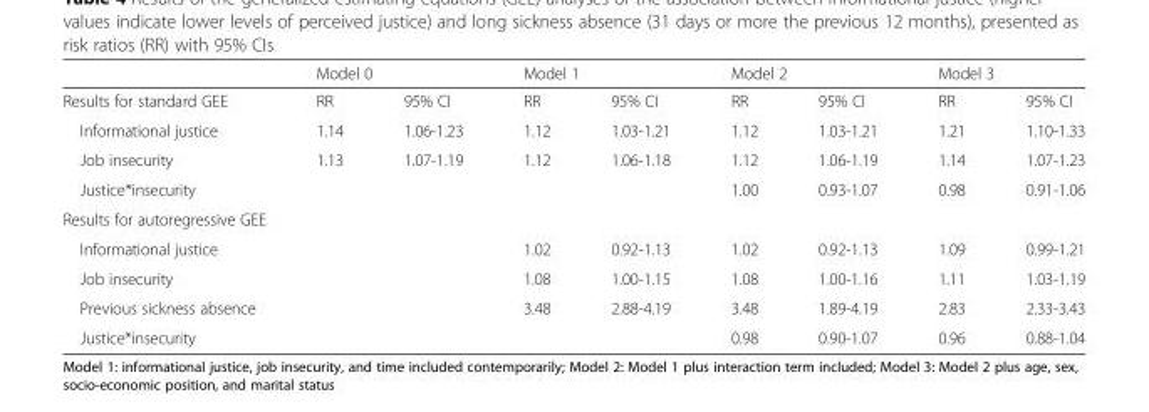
<table><thead><tr><td rowspan="2">Results for standard GEE</td><td colspan="2">Model 0</td><td colspan="2">Model 1</td><td colspan="2">Model 2</td><td colspan="2">Model 3</td></tr><tr><td>RR</td><td>95% CI</td><td>RR</td><td>95% CI</td><td>RR</td><td>95% CI</td><td>RR</td><td>95% CI</td></tr></thead><tbody><tr><td>Informational justice</td><td>1.14</td><td>1.06-1.23</td><td>1.12</td><td>1.03-1.21</td><td>1.12</td><td>1.03-1.21</td><td>1.21</td><td>1.10-1.33</td></tr><tr><td>Job insecurity</td><td>1.13</td><td>1.07-1.19</td><td>1.12</td><td>1.06-1.18</td><td>1.12</td><td>1.06-1.19</td><td>1.14</td><td>1.07-1.23</td></tr><tr><td>Justice*insecurity</td><td></td><td></td><td></td><td></td><td>1.00</td><td>0.93-1.07</td><td>0.98</td><td>0.91-1.06</td></tr><tr><td colspan="9">Results for autoregressive GEE</td></tr><tr><td>Informational justice</td><td></td><td></td><td>1.02</td><td>0.92-1.13</td><td>1.02</td><td>0.92-1.13</td><td>1.09</td><td>0.99-1.21</td></tr><tr><td>Job insecurity</td><td></td><td></td><td>1.08</td><td>1.00-1.15</td><td>1.08</td><td>1.00-1.16</td><td>1.11</td><td>1.03-1.19</td></tr><tr><td>Previous sickness absence</td><td></td><td></td><td>3.48</td><td>2.88-4.19</td><td>3.48</td><td>1.89-4.19</td><td>2.83</td><td>2.33-3.43</td></tr><tr><td>Justice*insecurity</td><td></td><td></td><td></td><td></td><td>0.98</td><td>0.90-1.07</td><td>0.96</td><td>0.88-1.04</td></tr></tbody></table>